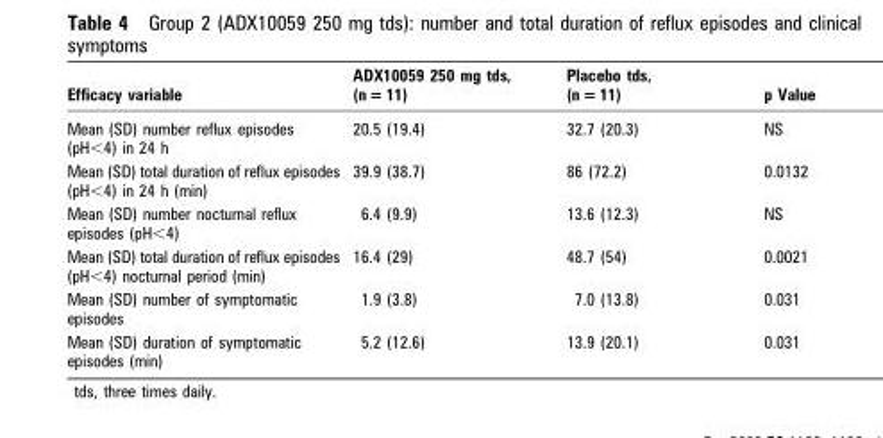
<table><thead><tr><td>Efficacy variable</td><td>ADX10059 250 mg tds, (n = 11)</td><td>Placebo tds, (n = 11)</td><td>p Value</td></tr></thead><tbody><tr><td>Mean (SD) number reflux episodes (pH&lt;4) in 24 h</td><td>20.5 (19.4)</td><td>32.7 (20.3)</td><td>NS</td></tr><tr><td>Mean (SD) total duration of reflux episodes (pH&lt;4) in 24 h (min)</td><td>39.9 (38.7)</td><td>86 (72.2)</td><td>0.0132</td></tr><tr><td>Mean (SD) number nocturnal reflux episodes (pH&lt;4)</td><td>6.4 (9.9)</td><td>13.6 (12.3)</td><td>NS</td></tr><tr><td>Mean (SD) total duration of reflux episodes (pH&lt;4) nocturnal period (min)</td><td>16.4 (29)</td><td>48.7 (54)</td><td>0.0021</td></tr><tr><td>Mean (SD) number of symptomatic episodes</td><td>1.9 (3.8)</td><td>7.0 (13.8)</td><td>0.031</td></tr><tr><td>Mean (SD) duration of symptomatic episodes (min)</td><td>5.2 (12.6)</td><td>13.9 (20.1)</td><td>0.031</td></tr></tbody></table>